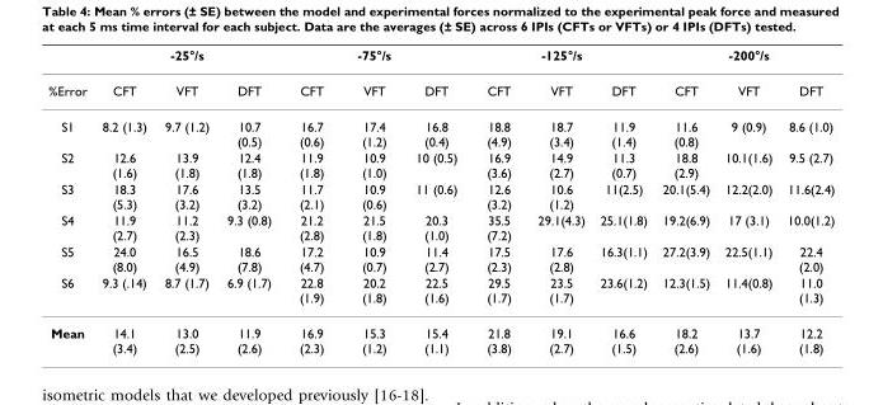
<table><thead><tr><td rowspan="2">%Error</td><td colspan="3">-25°/s</td><td colspan="3">-75°/s</td><td colspan="3">-125°/s</td><td colspan="3">-200°/s</td></tr><tr><td>CFT</td><td>VFT</td><td>DFT</td><td>CFT</td><td>VFT</td><td>DFT</td><td>CFT</td><td>VFT</td><td>DFT</td><td>CFT</td><td>VFT</td><td>DFT</td></tr></thead><tbody><tr><td>S1</td><td>8.2 (1.3)</td><td>9.7 (1.2)</td><td>10.7 (0.5)</td><td>16.7 (0.6)</td><td>17.4 (1.2)</td><td>16.8 (0.4)</td><td>18.8 (4.9)</td><td>18.7 (3.4)</td><td>11.9 (1.4)</td><td>11.6 (0.8)</td><td>9 (0.9)</td><td>8.6 (1.0)</td></tr><tr><td>S2</td><td>12.6 (1.6)</td><td>13.9 (1.8)</td><td>12.4 (1.8)</td><td>11.9 (1.8)</td><td>10.9 (1.0)</td><td>10 (0.5)</td><td>16.9 (3.6)</td><td>14.9 (2.7)</td><td>11.3 (0.7)</td><td>18.8 (2.9)</td><td>10.1(1.6)</td><td>9.5 (2.7)</td></tr><tr><td>S3</td><td>18.3 (5.3)</td><td>17.6 (3.2)</td><td>13.5 (3.2)</td><td>11.7 (2.1)</td><td>10.9 (0.6)</td><td>11 (0.6)</td><td>12.6 (3.2)</td><td>10.6 (1.2)</td><td>11(2.5)</td><td>20.1(5.4)</td><td>12.2(2.0)</td><td>11.6(2.4)</td></tr><tr><td>S4</td><td>11.9 (2.7)</td><td>11.2 (2.3)</td><td>9.3 (0.8)</td><td>21.2 (2.8)</td><td>21.5 (1.8)</td><td>20.3 (1.0)</td><td>35.5 (7.2)</td><td>29.1(4.3)</td><td>25.1(1.8)</td><td>19.2(6.9)</td><td>17 (3.1)</td><td>10.0(1.2)</td></tr><tr><td>S5</td><td>24.0 (8.0)</td><td>16.5 (4.9)</td><td>18.6 (7.8)</td><td>17.2 (4.7)</td><td>10.9 (0.7)</td><td>11.4 (2.7)</td><td>17.5 (2.3)</td><td>17.6 (2.8)</td><td>16.3(1.1)</td><td>27.2(3.9)</td><td>22.5(1.1)</td><td>22.4 (2.0)</td></tr><tr><td>S6</td><td>9.3 (.14)</td><td>8.7 (1.7)</td><td>6.9 (1.7)</td><td>22.8 (1.9)</td><td>20.2 (1.8)</td><td>22.5 (1.6)</td><td>29.5 (1.7)</td><td>23.5 (1.7)</td><td>23.6(1.2)</td><td>12.3(1.5)</td><td>11.4(0.8)</td><td>11.0 (1.3)</td></tr><tr><td>Mean</td><td>14.1 (3.4)</td><td>13.0 (2.5)</td><td>11.9 (2.6)</td><td>16.9 (2.3)</td><td>15.3 (1.2)</td><td>15.4 (1.1)</td><td>21.8 (3.8)</td><td>19.1 (2.7)</td><td>16.6 (1.5)</td><td>18.2 (2.6)</td><td>13.7 (1.6)</td><td>12.2 (1.8)</td></tr></tbody></table>